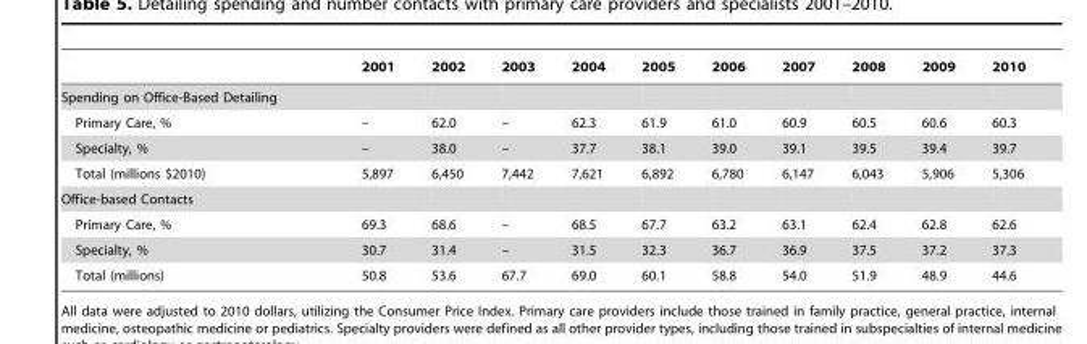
<table><thead><tr><td></td><td>2001</td><td>2002</td><td>2003</td><td>2004</td><td>2005</td><td>2006</td><td>2007</td><td>2008</td><td>2009</td><td>2010</td></tr></thead><tbody><tr><td colspan="11">Spending on Office-Based Detailing</td></tr><tr><td>Primary Care, %</td><td>–</td><td>62.0</td><td>–</td><td>62.3</td><td>61.9</td><td>61.0</td><td>60.9</td><td>60.5</td><td>60.6</td><td>60.3</td></tr><tr><td>Specialty, %</td><td>–</td><td>38.0</td><td>–</td><td>37.7</td><td>38.1</td><td>39.0</td><td>39.1</td><td>39.5</td><td>39.4</td><td>39.7</td></tr><tr><td>Total (millions $2010)</td><td>5,897</td><td>6,450</td><td>7,442</td><td>7,621</td><td>6,892</td><td>6,780</td><td>6,147</td><td>6,043</td><td>5,906</td><td>5,306</td></tr><tr><td colspan="11">Office-based Contacts</td></tr><tr><td>Primary Care, %</td><td>69.3</td><td>68.6</td><td>–</td><td>68.5</td><td>67.7</td><td>63.2</td><td>63.1</td><td>62.4</td><td>62.8</td><td>62.6</td></tr><tr><td>Specialty, %</td><td>30.7</td><td>31.4</td><td>–</td><td>31.5</td><td>32.3</td><td>36.7</td><td>36.9</td><td>37.5</td><td>37.2</td><td>37.3</td></tr><tr><td>Total (millions)</td><td>50.8</td><td>53.6</td><td>67.7</td><td>69.0</td><td>60.1</td><td>58.8</td><td>54.0</td><td>51.9</td><td>48.9</td><td>44.6</td></tr></tbody></table>